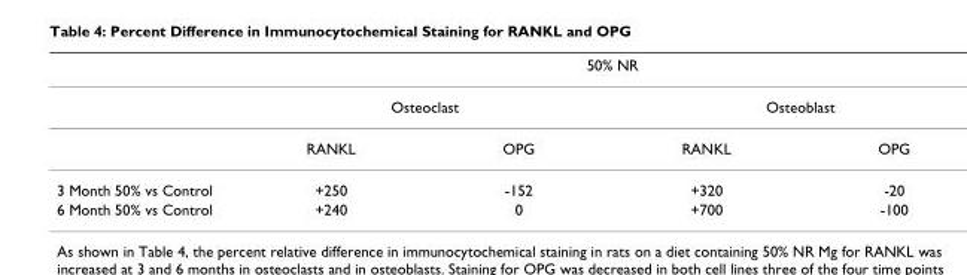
<table><thead><tr><td rowspan="3"></td><td colspan="4">50% NR</td></tr><tr><td colspan="2">Osteoclast</td><td colspan="2">Osteoblast</td></tr><tr><td>RANKL</td><td>OPG</td><td>RANKL</td><td>OPG</td></tr></thead><tbody><tr><td>3 Month 50% vs Control</td><td>+250</td><td>-152</td><td>+320</td><td>-20</td></tr><tr><td>6 Month 50% vs Control</td><td>+240</td><td>0</td><td>+700</td><td>-100</td></tr></tbody></table>